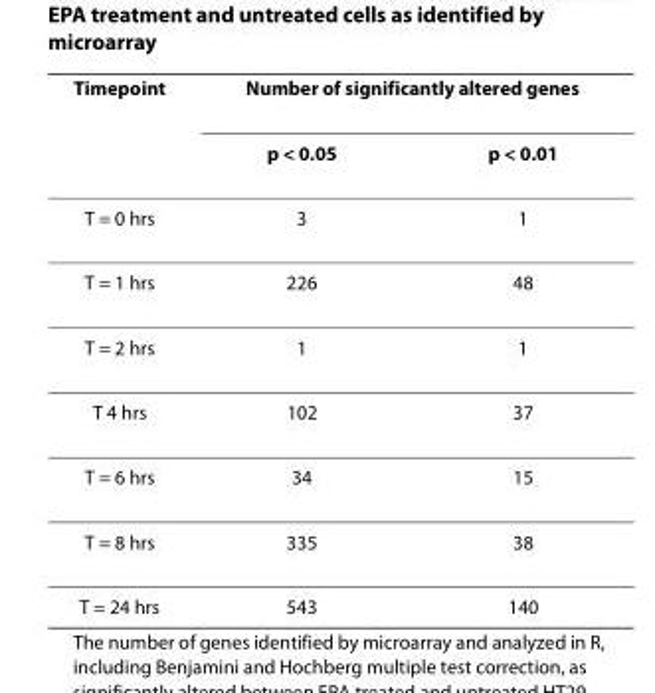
<table><thead><tr><td rowspan="2">Timepoint</td><td colspan="2">Number of significantly altered genes</td></tr><tr><td>p &lt; 0.05</td><td>p &lt; 0.01</td></tr></thead><tbody><tr><td>T = 0 hrs</td><td>3</td><td>1</td></tr><tr><td>T = 1 hrs</td><td>226</td><td>48</td></tr><tr><td>T = 2 hrs</td><td>1</td><td>1</td></tr><tr><td>T 4 hrs</td><td>102</td><td>37</td></tr><tr><td>T = 6 hrs</td><td>34</td><td>15</td></tr><tr><td>T = 8 hrs</td><td>335</td><td>38</td></tr><tr><td>T = 24 hrs</td><td>543</td><td>140</td></tr></tbody></table>